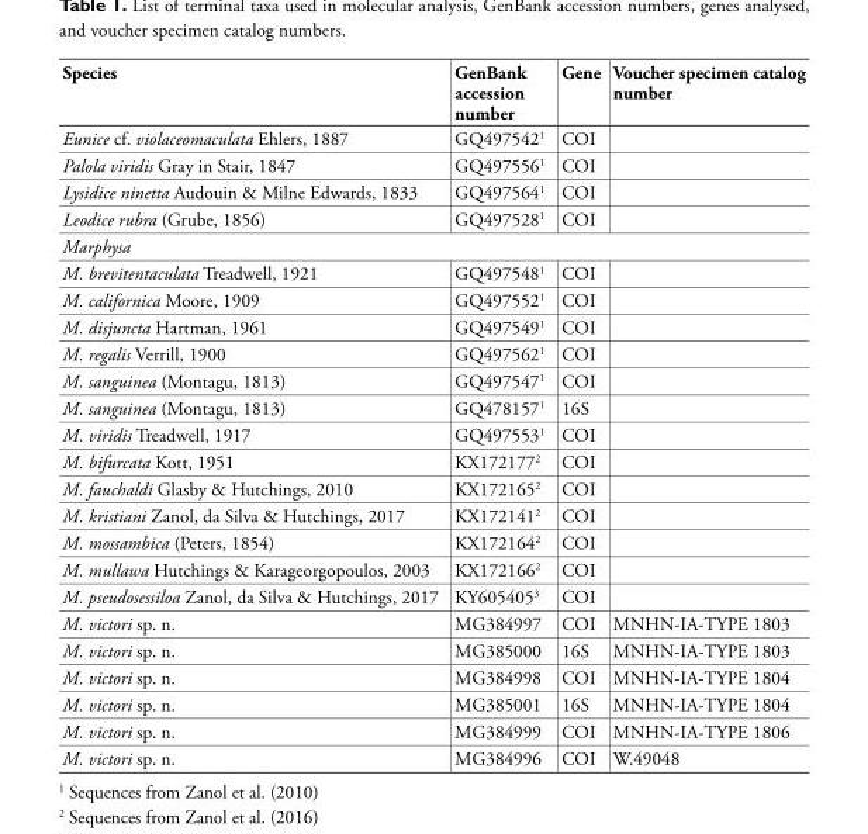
<table><tbody><tr><td>Species</td><td>GenBank accession number</td><td>Gene</td><td>Voucher specimen catalog number</td></tr><tr><td>Eunice cf. violaceomaculata Ehlers, 1887</td><td>GQ497542<sup>1</sup></td><td>COI</td><td></td></tr><tr><td>Palola viridis Gray in Stair, 1847</td><td>GQ497556<sup>1</sup></td><td>COI</td><td></td></tr><tr><td>Lysidice ninetta Audouin &amp; Milne Edwards, 1833</td><td>GQ497564<sup>1</sup></td><td>COI</td><td></td></tr><tr><td>Leodice rubra (Grube, 1856)</td><td>GQ497528<sup>1</sup></td><td>COI</td><td></td></tr><tr><td colspan="4">Marphysa</td></tr><tr><td>M. brevitentaculata Treadwell, 1921</td><td>GQ497548<sup>1</sup></td><td>COI</td><td></td></tr><tr><td>M. californica Moore, 1909</td><td>GQ497552<sup>1</sup></td><td>COI</td><td></td></tr><tr><td>M. disjuncta Hartman, 1961</td><td>GQ497549<sup>1</sup></td><td>COI</td><td></td></tr><tr><td>M. regalis Verrill, 1900</td><td>GQ497562<sup>1</sup></td><td>COI</td><td></td></tr><tr><td>M. sanguinea (Montagu, 1813)</td><td>GQ497547<sup>1</sup></td><td>COI</td><td></td></tr><tr><td>M. sanguinea (Montagu, 1813)</td><td>GQ478157<sup>1</sup></td><td>16S</td><td></td></tr><tr><td>M. viridis Treadwell, 1917</td><td>GQ497553<sup>1</sup></td><td>COI</td><td></td></tr><tr><td>M. bifurcata Kott, 1951</td><td>KX172177<sup>2</sup></td><td>COI</td><td></td></tr><tr><td>M. fauchaldi Glasby &amp; Hutchings, 2010</td><td>KX172165<sup>2</sup></td><td>COI</td><td></td></tr><tr><td>M. kristiani Zanol, da Silva &amp; Hutchings, 2017</td><td>KX172141<sup>2</sup></td><td>COI</td><td></td></tr><tr><td>M. mossambica (Peters, 1854)</td><td>KX172164<sup>2</sup></td><td>COI</td><td></td></tr><tr><td>M. mullawa Hutchings &amp; Karageorgopoulos, 2003</td><td>KX172166<sup>2</sup></td><td>COI</td><td></td></tr><tr><td>M. pseudosessiloa Zanol, da Silva &amp; Hutchings, 2017</td><td>KY605405<sup>3</sup></td><td>COI</td><td></td></tr><tr><td>M. victori sp. n.</td><td>MG384997</td><td>COI</td><td>MNHN-IA-TYPE 1803</td></tr><tr><td>M. victori sp. n.</td><td>MG385000</td><td>16S</td><td>MNHN-IA-TYPE 1803</td></tr><tr><td>M. victori sp. n.</td><td>MG384998</td><td>COI</td><td>MNHN-IA-TYPE 1804</td></tr><tr><td>M. victori sp. n.</td><td>MG385001</td><td>16S</td><td>MNHN-IA-TYPE 1804</td></tr><tr><td>M. victori sp. n.</td><td>MG384999</td><td>COI</td><td>MNHN-IA-TYPE 1806</td></tr><tr><td>M. victori sp. n.</td><td>MG384996</td><td>COI</td><td>W.49048</td></tr></tbody></table>